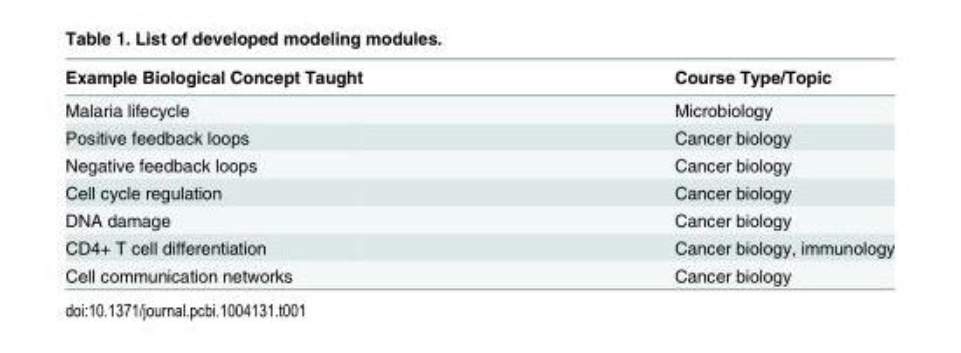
<table><thead><tr><td>Example Biological Concept Taught</td><td>Course Type/Topic</td></tr></thead><tbody><tr><td>Malaria lifecycle</td><td>Microbiology</td></tr><tr><td>Positive feedback loops</td><td>Cancer biology</td></tr><tr><td>Negative feedback loops</td><td>Cancer biology</td></tr><tr><td>Cell cycle regulation</td><td>Cancer biology</td></tr><tr><td>DNA damage</td><td>Cancer biology</td></tr><tr><td>CD4+ T cell differentiation</td><td>Cancer biology, immunology</td></tr><tr><td>Cell communication networks</td><td>Cancer biology</td></tr></tbody></table>